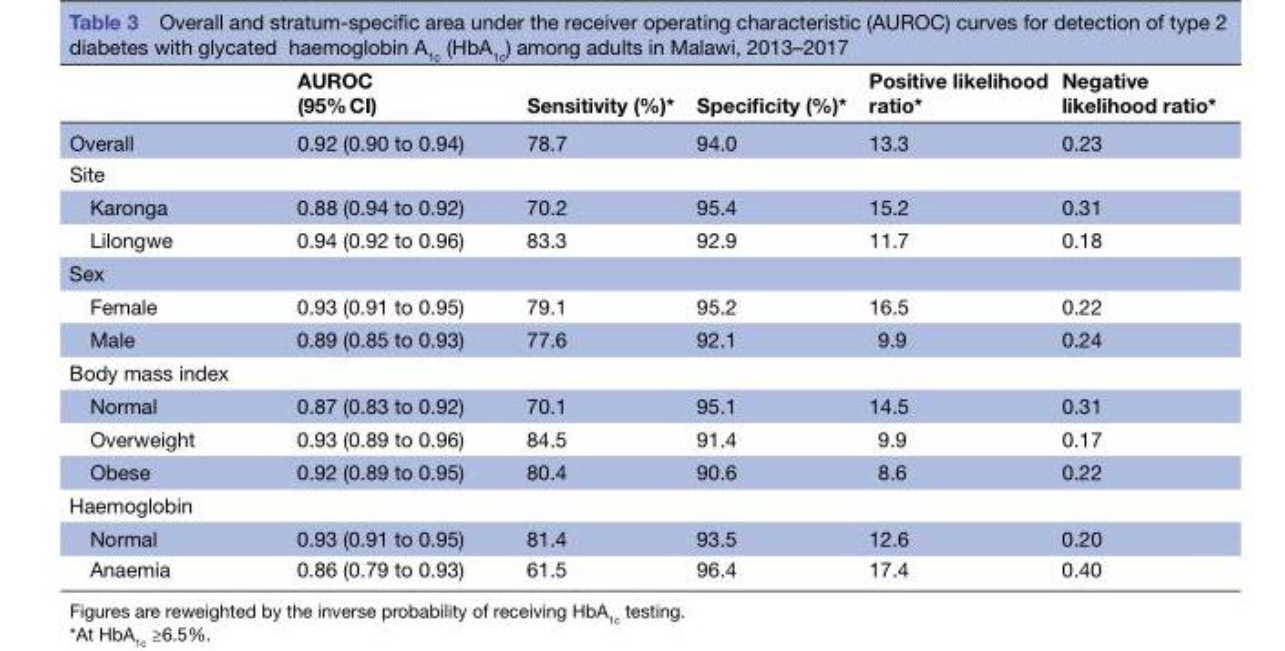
<table><thead><tr><td></td><td>AUROC (95% CI)</td><td>Sensitivity (%)*</td><td>Specificity (%)*</td><td>Positive likelihood ratio*</td><td>Negative likelihood ratio*</td></tr></thead><tbody><tr><td>Overall</td><td>0.92 (0.90 to 0.94)</td><td>78.7</td><td>94.0</td><td>13.3</td><td>0.23</td></tr><tr><td colspan="6">Site</td></tr><tr><td>Karonga</td><td>0.88 (0.94 to 0.92)</td><td>70.2</td><td>95.4</td><td>15.2</td><td>0.31</td></tr><tr><td>Lilongwe</td><td>0.94 (0.92 to 0.96)</td><td>83.3</td><td>92.9</td><td>11.7</td><td>0.18</td></tr><tr><td colspan="6">Sex</td></tr><tr><td>Female</td><td>0.93 (0.91 to 0.95)</td><td>79.1</td><td>95.2</td><td>16.5</td><td>0.22</td></tr><tr><td>Male</td><td>0.89 (0.85 to 0.93)</td><td>77.6</td><td>92.1</td><td>9.9</td><td>0.24</td></tr><tr><td colspan="6">Body mass index</td></tr><tr><td>Normal</td><td>0.87 (0.83 to 0.92)</td><td>70.1</td><td>95.1</td><td>14.5</td><td>0.31</td></tr><tr><td>Overweight</td><td>0.93 (0.89 to 0.96)</td><td>84.5</td><td>91.4</td><td>9.9</td><td>0.17</td></tr><tr><td>Obese</td><td>0.92 (0.89 to 0.95)</td><td>80.4</td><td>90.6</td><td>8.6</td><td>0.22</td></tr><tr><td colspan="6">Haemoglobin</td></tr><tr><td>Normal</td><td>0.93 (0.91 to 0.95)</td><td>81.4</td><td>93.5</td><td>12.6</td><td>0.20</td></tr><tr><td>Anaemia</td><td>0.86 (0.79 to 0.93)</td><td>61.5</td><td>96.4</td><td>17.4</td><td>0.40</td></tr></tbody></table>